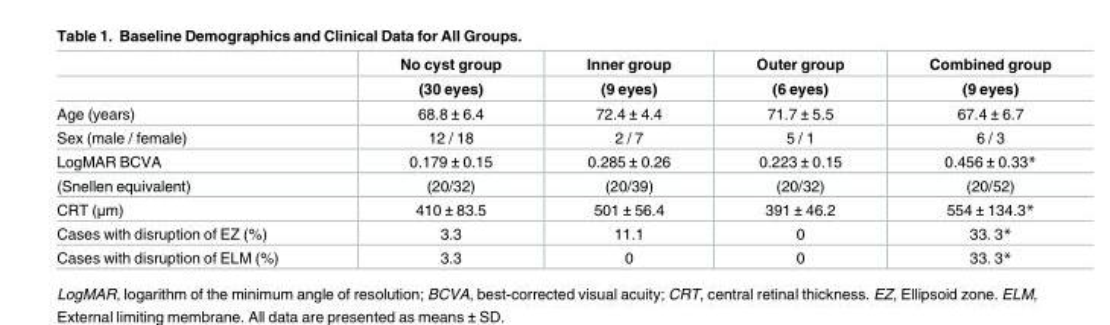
<table><thead><tr><td rowspan="2"></td><td rowspan="2">No cyst group (30 eyes)</td><td rowspan="2">Inner group (9 eyes)</td><td rowspan="2">Outer group (6 eyes)</td><td rowspan="2">Combined group (9 eyes)</td></tr><tr></tr></thead><tbody><tr><td>Age (years)</td><td>68.8 ± 6.4</td><td>72.4 ± 4.4</td><td>71.7 ± 5.5</td><td>67.4 ± 6.7</td></tr><tr><td>Sex (male / female)</td><td>12 / 18</td><td>2 / 7</td><td>5 / 1</td><td>6 / 3</td></tr><tr><td>LogMAR BCVA</td><td>0.179 ± 0.15</td><td>0.285 ± 0.26</td><td>0.223 ± 0.15</td><td>0.456 ± 0.33*</td></tr><tr><td>(Snellen equivalent)</td><td>(20/32)</td><td>(20/39)</td><td>(20/32)</td><td>(20/52)</td></tr><tr><td>CRT (μm)</td><td>410 ± 83.5</td><td>501 ± 56.4</td><td>391 ± 46.2</td><td>554 ± 134.3*</td></tr><tr><td>Cases with disruption of EZ (%)</td><td>3.3</td><td>11.1</td><td>0</td><td>33. 3*</td></tr><tr><td>Cases with disruption of ELM (%)</td><td>3.3</td><td>0</td><td>0</td><td>33. 3*</td></tr></tbody></table>